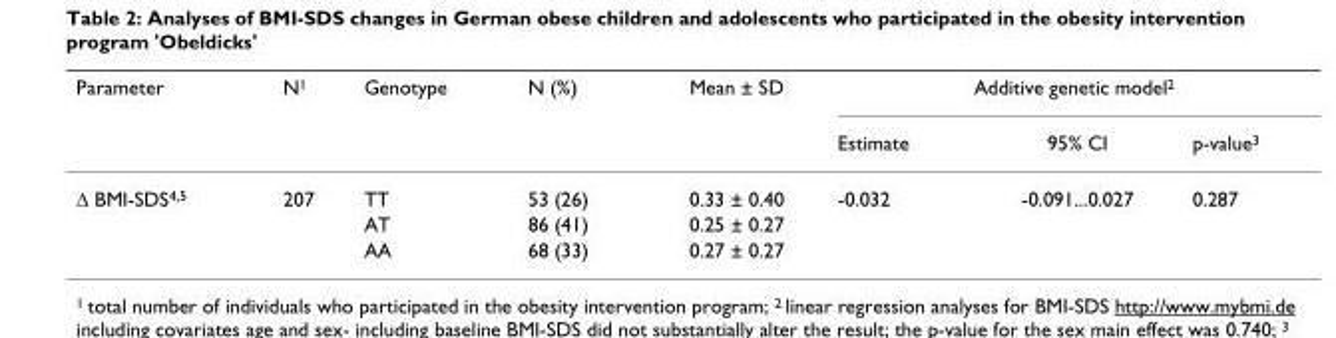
<table><thead><tr><td rowspan="2">Parameter</td><td rowspan="2">N<sup>1</sup></td><td rowspan="2">Genotype</td><td rowspan="2">N (%)</td><td rowspan="2">Mean ± SD</td><td colspan="3">Additive genetic model<sup>2</sup></td></tr><tr><td>Estimate</td><td>95% CI</td><td>p-value<sup>3</sup></td></tr></thead><tbody><tr><td rowspan="3">Δ BMI-SDS<sup>4,5</sup></td><td>207</td><td>TT</td><td>53 (26)</td><td>0.33 ± 0.40</td><td>-0.032</td><td>-0.091...0.027</td><td>0.287</td></tr><tr><td></td><td>AT</td><td>86 (41)</td><td>0.25 ± 0.27</td><td></td><td></td><td></td></tr><tr><td></td><td>AA</td><td>68 (33)</td><td>0.27 ± 0.27</td><td></td><td></td><td></td></tr></tbody></table>